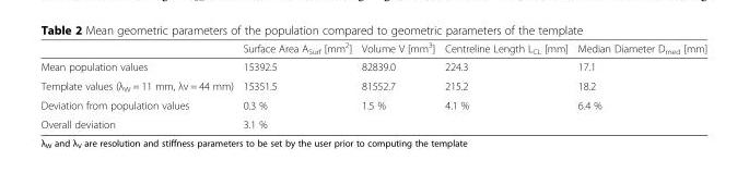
<table><thead><tr><td></td><td>Surface Area A<sub>Surf</sub> [mm<sup>2</sup>]</td><td>Volume V [mm<sup>3</sup>]</td><td>Centreline Length L<sub>CL</sub> [mm]</td><td>Median Diameter D<sub>med</sub> [mm]</td></tr></thead><tbody><tr><td>Mean population values</td><td>15392.5</td><td>82839.0</td><td>224.3</td><td>17.1</td></tr><tr><td>Template values (λ<sub>W</sub> = 11 mm, λv = 44 mm)</td><td>15351.5</td><td>81552.7</td><td>215.2</td><td>18.2</td></tr><tr><td>Deviation from population values</td><td>0.3 %</td><td>1.5 %</td><td>4.1 %</td><td>6.4 %</td></tr><tr><td>Overall deviation</td><td colspan="4">3.1 %</td></tr></tbody></table>